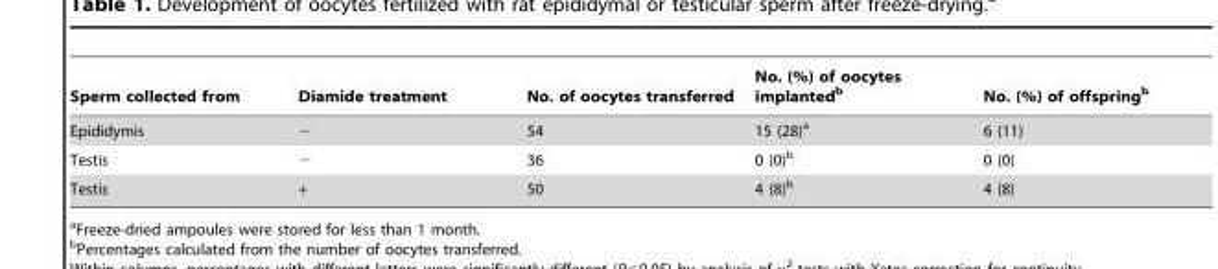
<table><thead><tr><td>Sperm collected from</td><td>Diamide treatment</td><td>No. of oocytes transferred</td><td>No. (%) of oocytes implanted<sup>b</sup></td><td>No. (%) of offspring<sup>b</sup></td></tr></thead><tbody><tr><td>Epididymis</td><td>−</td><td>54</td><td>15 (28)<sup>a</sup></td><td>6 (11)</td></tr><tr><td>Testis</td><td>−</td><td>36</td><td>0 (0)<sup>b</sup></td><td>0 (0)</td></tr><tr><td>Testis</td><td>+</td><td>50</td><td>4 (8)<sup>b</sup></td><td>4 (8)</td></tr></tbody></table>